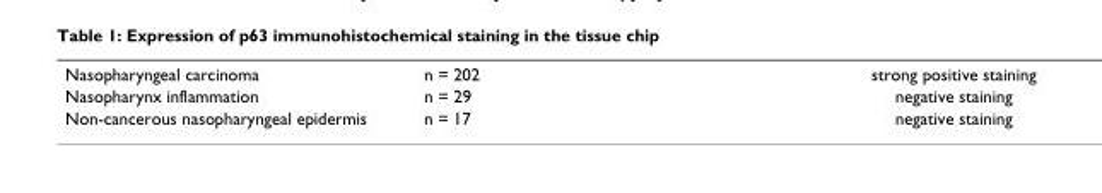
<table><tbody><tr><td>Nasopharyngeal carcinoma</td><td>n = 202</td><td>strong positive staining</td></tr><tr><td>Nasopharynx inflammation</td><td>n = 29</td><td>negative staining</td></tr><tr><td>Non-cancerous nasopharyngeal epidermis</td><td>n = 17</td><td>negative staining</td></tr></tbody></table>